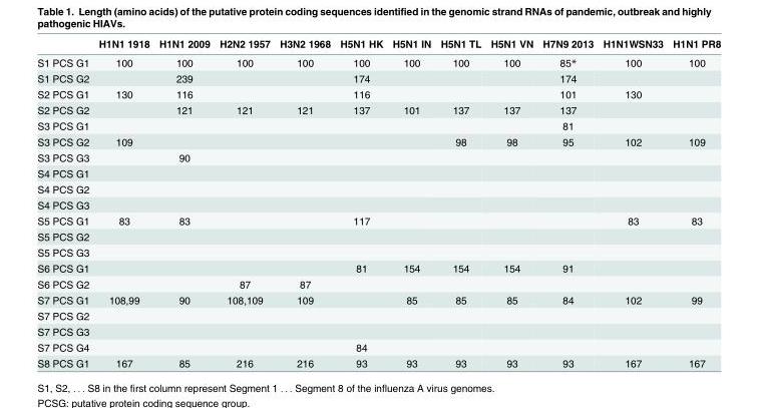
<table><thead><tr><td></td><td>H1N1 1918</td><td>H1N1 2009</td><td>H2N2 1957</td><td>H3N2 1968</td><td>H5N1 HK</td><td>H5N1 IN</td><td>H5N1 TL</td><td>H5N1 VN</td><td>H7N9 2013</td><td>H1N1WSN33</td><td>H1N1 PR8</td></tr></thead><tbody><tr><td>S1 PCS G1</td><td>100</td><td>100</td><td>100</td><td>100</td><td>100</td><td>100</td><td>100</td><td>100</td><td>85*</td><td>100</td><td>100</td></tr><tr><td>S1 PCS G2</td><td></td><td>239</td><td></td><td></td><td>174</td><td></td><td></td><td></td><td>174</td><td></td><td></td></tr><tr><td>S2 PCS G1</td><td>130</td><td>116</td><td></td><td></td><td>116</td><td></td><td></td><td></td><td>101</td><td>130</td><td></td></tr><tr><td>S2 PCS G2</td><td></td><td>121</td><td>121</td><td>121</td><td>137</td><td>101</td><td>137</td><td>137</td><td>137</td><td></td><td></td></tr><tr><td>S3 PCS G1</td><td></td><td></td><td></td><td></td><td></td><td></td><td></td><td></td><td>81</td><td></td><td></td></tr><tr><td>S3 PCS G2</td><td>109</td><td></td><td></td><td></td><td></td><td></td><td>98</td><td>98</td><td>95</td><td>102</td><td>109</td></tr><tr><td>S3 PCS G3</td><td></td><td>90</td><td></td><td></td><td></td><td></td><td></td><td></td><td></td><td></td><td></td></tr><tr><td colspan="12">S4 PCS G1</td></tr><tr><td colspan="12">S4 PCS G2</td></tr><tr><td colspan="12">S4 PCS G3</td></tr><tr><td>S5 PCS G1</td><td>83</td><td>83</td><td></td><td></td><td>117</td><td></td><td></td><td></td><td></td><td>83</td><td>83</td></tr><tr><td colspan="12">S5 PCS G2</td></tr><tr><td colspan="12">S5 PCS G3</td></tr><tr><td>S6 PCS G1</td><td></td><td></td><td></td><td></td><td>81</td><td>154</td><td>154</td><td>154</td><td>91</td><td></td><td></td></tr><tr><td>S6 PCS G2</td><td></td><td></td><td>87</td><td>87</td><td></td><td></td><td></td><td></td><td></td><td></td><td></td></tr><tr><td>S7 PCS G1</td><td>108,99</td><td>90</td><td>108,109</td><td>109</td><td></td><td>85</td><td>85</td><td>85</td><td>84</td><td>102</td><td>99</td></tr><tr><td colspan="12">S7 PCS G2</td></tr><tr><td colspan="12">S7 PCS G3</td></tr><tr><td>S7 PCS G4</td><td></td><td></td><td></td><td></td><td>84</td><td></td><td></td><td></td><td></td><td></td><td></td></tr><tr><td>S8 PCS G1</td><td>167</td><td>85</td><td>216</td><td>216</td><td>93</td><td>93</td><td>93</td><td>93</td><td>93</td><td>167</td><td>167</td></tr></tbody></table>